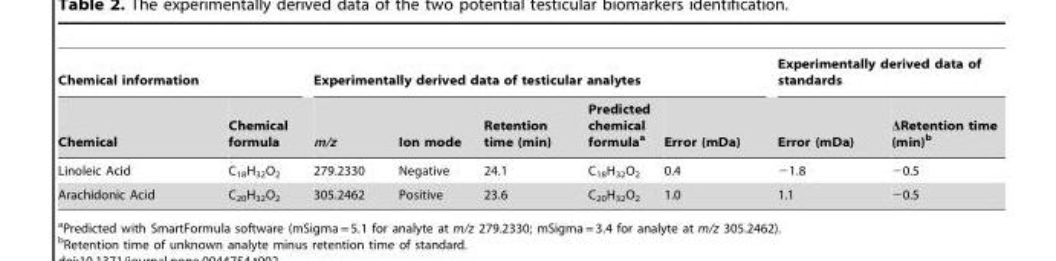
<table><thead><tr><td colspan="2">Chemical information</td><td colspan="5">Experimentally derived data of testicular analytes</td><td colspan="2">Experimentally derived data of standards</td></tr><tr><td>Chemical</td><td>Chemical formula</td><td>m/z</td><td>Ion mode</td><td>Retention time (min)</td><td>Predicted chemical formula<sup>a</sup></td><td>Error (mDa)</td><td>Error (mDa)</td><td>ΔRetention time (min)<sup>b</sup></td></tr></thead><tbody><tr><td>Linoleic Acid</td><td>C<sub>18</sub>H<sub>32</sub>O<sub>2</sub></td><td>279.2330</td><td>Negative</td><td>24.1</td><td>C<sub>18</sub>H<sub>32</sub>O<sub>2</sub></td><td>0.4</td><td>−1.8</td><td>−0.5</td></tr><tr><td>Arachidonic Acid</td><td>C<sub>20</sub>H<sub>32</sub>O<sub>2</sub></td><td>305.2462</td><td>Positive</td><td>23.6</td><td>C<sub>20</sub>H<sub>32</sub>O<sub>2</sub></td><td>1.0</td><td>1.1</td><td>−0.5</td></tr></tbody></table>